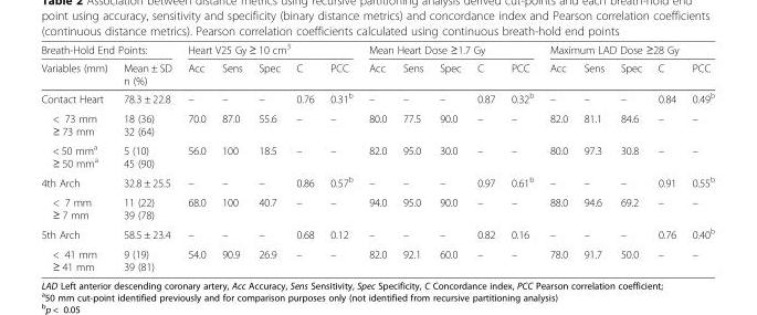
<table><thead><tr><td colspan="2">Breath-Hold End Points:</td><td colspan="5">Heart V25 Gy ≥ 10 cm<sup>3</sup></td><td colspan="5">Mean Heart Dose ≥1.7 Gy</td><td colspan="5">Maximum LAD Dose ≥28 Gy</td></tr><tr><td>Variables (mm)</td><td>Mean ± SD n (%)</td><td>Acc</td><td>Sens</td><td>Spec</td><td>C</td><td>PCC</td><td>Acc</td><td>Sens</td><td>Spec</td><td>C</td><td>PCC</td><td>Acc</td><td>Sens</td><td>Spec</td><td>C</td><td>PCC</td></tr></thead><tbody><tr><td>Contact Heart</td><td>78.3 ± 22.8</td><td>–</td><td>–</td><td>–</td><td>0.76</td><td>0.31<sup>b</sup></td><td>–</td><td>–</td><td>–</td><td>0.87</td><td>0.32<sup>b</sup></td><td>–</td><td>–</td><td>–</td><td>0.84</td><td>0.49<sup>b</sup></td></tr><tr><td>&lt; 73 mm ≥ 73 mm</td><td>18 (36) 32 (64)</td><td>70.0</td><td>87.0</td><td>55.6</td><td>–</td><td>–</td><td>80.0</td><td>77.5</td><td>90.0</td><td>–</td><td>–</td><td>82.0</td><td>81.1</td><td>84.6</td><td>–</td><td>–</td></tr><tr><td>&lt; 50 mm<sup>a</sup> ≥ 50 mm<sup>a</sup></td><td>5 (10) 45 (90)</td><td>56.0</td><td>100</td><td>18.5</td><td>–</td><td>–</td><td>82.0</td><td>95.0</td><td>30.0</td><td>–</td><td>–</td><td>80.0</td><td>97.3</td><td>30.8</td><td>–</td><td>–</td></tr><tr><td>4th Arch</td><td>32.8 ± 25.5</td><td>–</td><td>–</td><td>–</td><td>0.86</td><td>0.57<sup>b</sup></td><td>–</td><td>–</td><td>–</td><td>0.97</td><td>0.61<sup>b</sup></td><td>–</td><td>–</td><td>–</td><td>0.91</td><td>0.55<sup>b</sup></td></tr><tr><td>&lt; 7 mm ≥ 7 mm</td><td>11 (22) 39 (78)</td><td>68.0</td><td>100</td><td>40.7</td><td>–</td><td>–</td><td>94.0</td><td>95.0</td><td>90.0</td><td>–</td><td>–</td><td>88.0</td><td>94.6</td><td>69.2</td><td>–</td><td>–</td></tr><tr><td>5th Arch</td><td>58.5 ± 23.4</td><td>–</td><td>–</td><td>–</td><td>0.68</td><td>0.12</td><td>–</td><td>–</td><td>–</td><td>0.82</td><td>0.16</td><td>–</td><td>–</td><td>–</td><td>0.76</td><td>0.40<sup>b</sup></td></tr><tr><td>&lt; 41 mm ≥ 41 mm</td><td>9 (19) 39 (81)</td><td>54.0</td><td>90.9</td><td>26.9</td><td>–</td><td>–</td><td>82.0</td><td>92.1</td><td>60.0</td><td>–</td><td>–</td><td>78.0</td><td>91.7</td><td>50.0</td><td>–</td><td>–</td></tr></tbody></table>